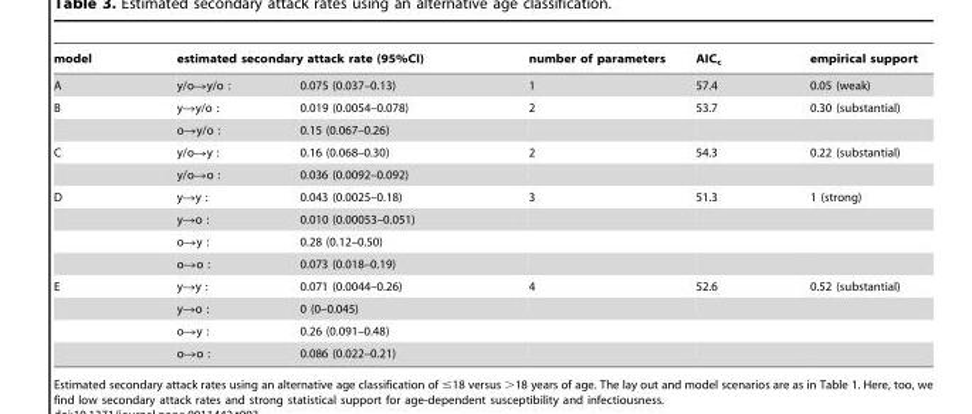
<table><thead><tr><td rowspan="2">model A</td><td colspan="2">estimated secondary attack rate (95%CI)</td><td rowspan="2">number of parameters 1</td><td rowspan="2">AIC<sub>c</sub> 57.4</td><td rowspan="2">empirical support 0.05 (weak)</td></tr><tr><td>y/o→y/o :</td><td>0.075 (0.037–0.13)</td></tr></thead><tbody><tr><td rowspan="2">B</td><td>y→y/o :</td><td>0.019 (0.0054–0.078)</td><td>2</td><td>53.7</td><td>0.30 (substantial)</td></tr><tr><td>o→y/o :</td><td>0.15 (0.067–0.26)</td><td></td><td></td><td></td></tr><tr><td rowspan="2">C</td><td>y/o→y :</td><td>0.16 (0.068–0.30)</td><td>2</td><td>54.3</td><td>0.22 (substantial)</td></tr><tr><td>y/o→o :</td><td>0.036 (0.0092–0.092)</td><td></td><td></td><td></td></tr><tr><td rowspan="4">D</td><td>y→y :</td><td>0.043 (0.0025–0.18)</td><td>3</td><td>51.3</td><td>1 (strong)</td></tr><tr><td>y→o :</td><td>0.010 (0.00053–0.051)</td><td></td><td></td><td></td></tr><tr><td>o→y :</td><td>0.28 (0.12–0.50)</td><td></td><td></td><td></td></tr><tr><td>o→o :</td><td>0.073 (0.018–0.19)</td><td></td><td></td><td></td></tr><tr><td rowspan="4">E</td><td>y→y :</td><td>0.071 (0.0044–0.26)</td><td>4</td><td>52.6</td><td>0.52 (substantial)</td></tr><tr><td>y→o :</td><td>0 (0–0.045)</td><td></td><td></td><td></td></tr><tr><td>o→y :</td><td>0.26 (0.091–0.48)</td><td></td><td></td><td></td></tr><tr><td>o→o :</td><td>0.086 (0.022–0.21)</td><td></td><td></td><td></td></tr></tbody></table>